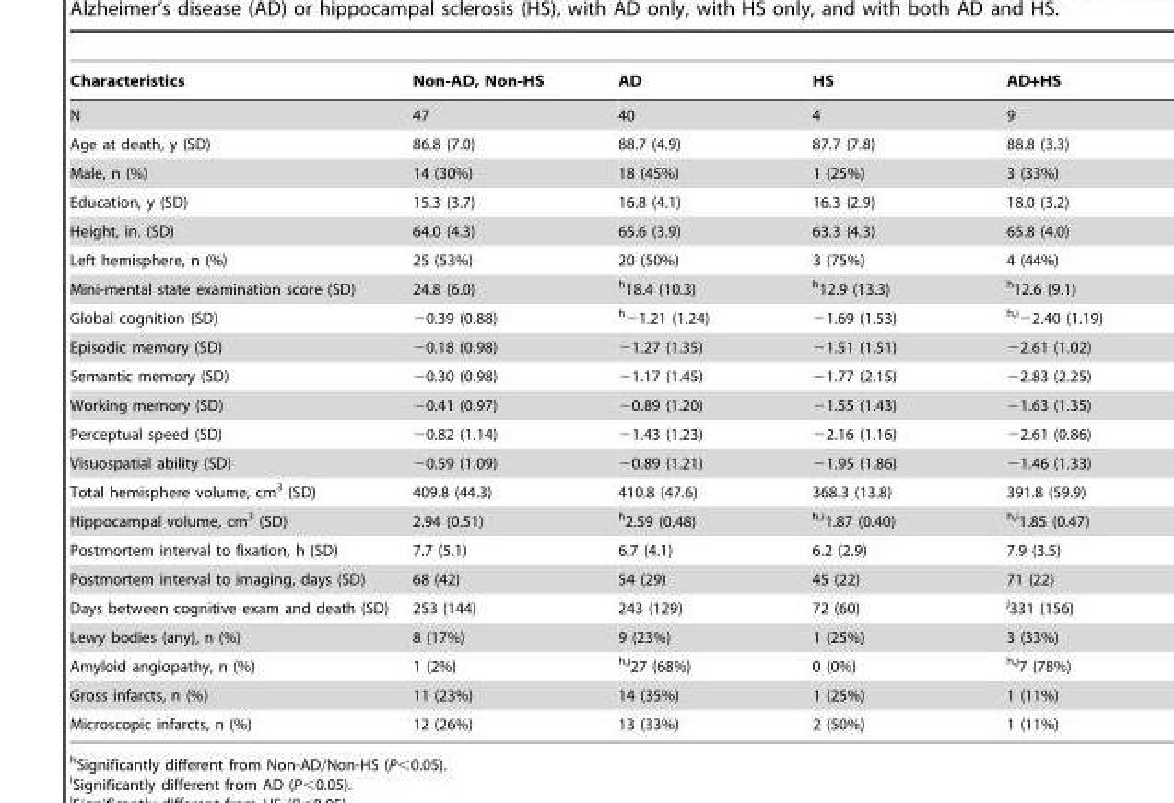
<table><thead><tr><td>Characteristics</td><td>Non-AD, Non-HS</td><td>AD</td><td>HS</td><td>AD+HS</td></tr></thead><tbody><tr><td>N</td><td>47</td><td>40</td><td>4</td><td>9</td></tr><tr><td>Age at death, y (SD)</td><td>86.8 (7.0)</td><td>88.7 (4.9)</td><td>87.7 (7.8)</td><td>88.8 (3.3)</td></tr><tr><td>Male, n (%)</td><td>14 (30%)</td><td>18 (45%)</td><td>1 (25%)</td><td>3 (33%)</td></tr><tr><td>Education, y (SD)</td><td>15.3 (3.7)</td><td>16.8 (4.1)</td><td>16.3 (2.9)</td><td>18.0 (3.2)</td></tr><tr><td>Height, in. (SD)</td><td>64.0 (4.3)</td><td>65.6 (3.9)</td><td>63.3 (4.3)</td><td>65.8 (4.0)</td></tr><tr><td>Left hemisphere, n (%)</td><td>25 (53%)</td><td>20 (50%)</td><td>3 (75%)</td><td>4 (44%)</td></tr><tr><td>Mini-mental state examination score (SD)</td><td>24.8 (6.0)</td><td>h18.4 (10.3)</td><td>h12.9 (13.3)</td><td>h12.6 (9.1)</td></tr><tr><td>Global cognition (SD)</td><td>−0.39 (0.88)</td><td>h−1.21 (1.24)</td><td>−1.69 (1.53)</td><td>h<sup>,</sup>i−2.40 (1.19)</td></tr><tr><td>Episodic memory (SD)</td><td>−0.18 (0.98)</td><td>−1.27 (1.35)</td><td>−1.51 (1.51)</td><td>−2.61 (1.02)</td></tr><tr><td>Semantic memory (SD)</td><td>−0.30 (0.98)</td><td>−1.17 (1.45)</td><td>−1.77 (2.15)</td><td>−2.83 (2.25)</td></tr><tr><td>Working memory (SD)</td><td>−0.41 (0.97)</td><td>−0.89 (1.20)</td><td>−1.55 (1.43)</td><td>−1.63 (1.35)</td></tr><tr><td>Perceptual speed (SD)</td><td>−0.82 (1.14)</td><td>−1.43 (1.23)</td><td>−2.16 (1.16)</td><td>−2.61 (0.86)</td></tr><tr><td>Visuospatial ability (SD)</td><td>−0.59 (1.09)</td><td>−0.89 (1.21)</td><td>−1.95 (1.86)</td><td>−1.46 (1.33)</td></tr><tr><td>Total hemisphere volume, cm<sup>3</sup> (SD)</td><td>409.8 (44.3)</td><td>410.8 (47.6)</td><td>368.3 (13.8)</td><td>391.8 (59.9)</td></tr><tr><td>Hippocampal volume, cm<sup>3</sup> (SD)</td><td>2.94 (0.51)</td><td>h2.59 (0.48)</td><td>h<sup>,</sup>i1.87 (0.40)</td><td>h<sup>,</sup>i1.85 (0.47)</td></tr><tr><td>Postmortem interval to fixation, h (SD)</td><td>7.7 (5.1)</td><td>6.7 (4.1)</td><td>6.2 (2.9)</td><td>7.9 (3.5)</td></tr><tr><td>Postmortem interval to imaging, days (SD)</td><td>68 (42)</td><td>54 (29)</td><td>45 (22)</td><td>71 (22)</td></tr><tr><td>Days between cognitive exam and death (SD)</td><td>253 (144)</td><td>243 (129)</td><td>72 (60)</td><td>j331 (156)</td></tr><tr><td>Lewy bodies (any), n (%)</td><td>8 (17%)</td><td>9 (23%)</td><td>1 (25%)</td><td>3 (33%)</td></tr><tr><td>Amyloid angiopathy, n (%)</td><td>1 (2%)</td><td>h<sup>,</sup>j27 (68%)</td><td>0 (0%)</td><td>h<sup>,</sup>j7 (78%)</td></tr><tr><td>Gross infarcts, n (%)</td><td>11 (23%)</td><td>14 (35%)</td><td>1 (25%)</td><td>1 (11%)</td></tr><tr><td>Microscopic infarcts, n (%)</td><td>12 (26%)</td><td>13 (33%)</td><td>2 (50%)</td><td>1 (11%)</td></tr></tbody></table>